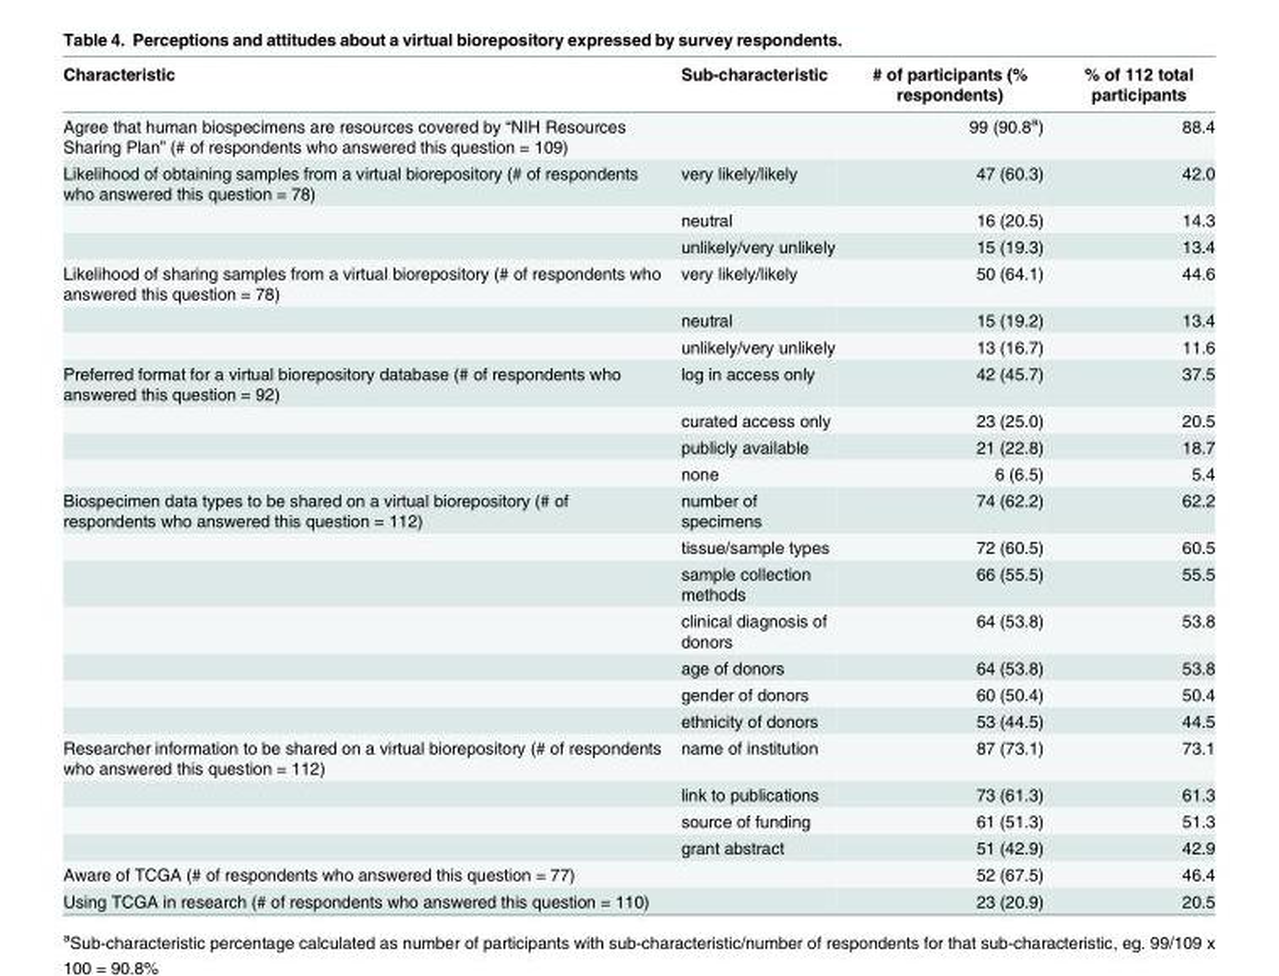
<table><thead><tr><td>Characteristic</td><td>Sub-characteristic</td><td># of participants (% respondents)</td><td>% of 112 total participants</td></tr></thead><tbody><tr><td>Agree that human biospecimens are resources covered by “NIH Resources Sharing Plan” (# of respondents who answered this question = 109)</td><td></td><td>99 (90.8<sup>a</sup>)</td><td>88.4</td></tr><tr><td rowspan="3">Likelihood of obtaining samples from a virtual biorepository (# of respondents who answered this question = 78)</td><td>very likely/likely</td><td>47 (60.3)</td><td>42.0</td></tr><tr><td>neutral</td><td>16 (20.5)</td><td>14.3</td></tr><tr><td>unlikely/very unlikely</td><td>15 (19.3)</td><td>13.4</td></tr><tr><td rowspan="3">Likelihood of sharing samples from a virtual biorepository (# of respondents who answered this question = 78)</td><td>very likely/likely</td><td>50 (64.1)</td><td>44.6</td></tr><tr><td>neutral</td><td>15 (19.2)</td><td>13.4</td></tr><tr><td>unlikely/very unlikely</td><td>13 (16.7)</td><td>11.6</td></tr><tr><td rowspan="4">Preferred format for a virtual biorepository database (# of respondents who answered this question = 92)</td><td>log in access only</td><td>42 (45.7)</td><td>37.5</td></tr><tr><td>curated access only</td><td>23 (25.0)</td><td>20.5</td></tr><tr><td>publicly available</td><td>21 (22.8)</td><td>18.7</td></tr><tr><td>none</td><td>6 (6.5)</td><td>5.4</td></tr><tr><td rowspan="7">Biospecimen data types to be shared on a virtual biorepository (# of respondents who answered this question = 112)</td><td>number of specimens</td><td>74 (62.2)</td><td>62.2</td></tr><tr><td>tissue/sample types</td><td>72 (60.5)</td><td>60.5</td></tr><tr><td>sample collection methods</td><td>66 (55.5)</td><td>55.5</td></tr><tr><td>clinical diagnosis of donors</td><td>64 (53.8)</td><td>53.8</td></tr><tr><td>age of donors</td><td>64 (53.8)</td><td>53.8</td></tr><tr><td>gender of donors</td><td>60 (50.4)</td><td>50.4</td></tr><tr><td>ethnicity of donors</td><td>53 (44.5)</td><td>44.5</td></tr><tr><td rowspan="4">Researcher information to be shared on a virtual biorepository (# of respondents who answered this question = 112)</td><td>name of institution</td><td>87 (73.1)</td><td>73.1</td></tr><tr><td>link to publications</td><td>73 (61.3)</td><td>61.3</td></tr><tr><td>source of funding</td><td>61 (51.3)</td><td>51.3</td></tr><tr><td>grant abstract</td><td>51 (42.9)</td><td>42.9</td></tr><tr><td>Aware of TCGA (# of respondents who answered this question = 77)</td><td></td><td>52 (67.5)</td><td>46.4</td></tr><tr><td>Using TCGA in research (# of respondents who answered this question = 110)</td><td></td><td>23 (20.9)</td><td>20.5</td></tr></tbody></table>